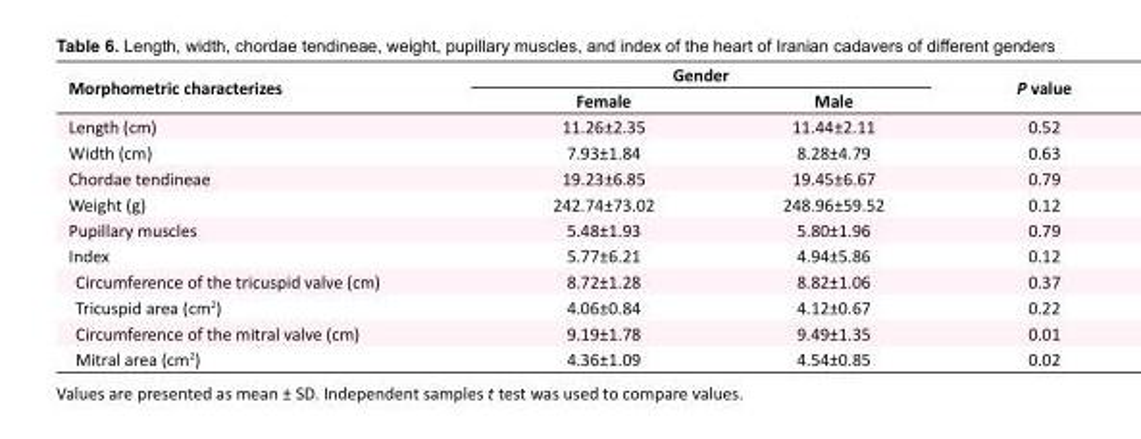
<table><tbody><tr><td rowspan="2">Morphometric characterizes</td><td colspan="2">Gender</td><td rowspan="2">P value</td></tr><tr><td>Female</td><td>Male</td></tr><tr><td>Length (cm)</td><td>11.26±2.35</td><td>11.44±2.11</td><td>0.52</td></tr><tr><td>Width (cm)</td><td>7.93±1.84</td><td>8.28±4.79</td><td>0.63</td></tr><tr><td>Chordae tendineae</td><td>19.23±6.85</td><td>19.45±6.67</td><td>0.79</td></tr><tr><td>Weight (g)</td><td>242.74±73.02</td><td>248.96±59.52</td><td>0.12</td></tr><tr><td>Pupillary muscles</td><td>5.48±1.93</td><td>5.80±1.96</td><td>0.79</td></tr><tr><td>Index</td><td>5.77±6.21</td><td>4.94±5.86</td><td>0.12</td></tr><tr><td>Circumference of the tricuspid valve (cm)</td><td>8.72±1.28</td><td>8.82±1.06</td><td>0.37</td></tr><tr><td>Tricuspid area (cm<sup>2</sup>)</td><td>4.06±0.84</td><td>4.12±0.67</td><td>0.22</td></tr><tr><td>Circumference of the mitral valve (cm)</td><td>9.19±1.78</td><td>9.49±1.35</td><td>0.01</td></tr><tr><td>Mitral area (cm<sup>2</sup>)</td><td>4.36±1.09</td><td>4.54±0.85</td><td>0.02</td></tr></tbody></table>